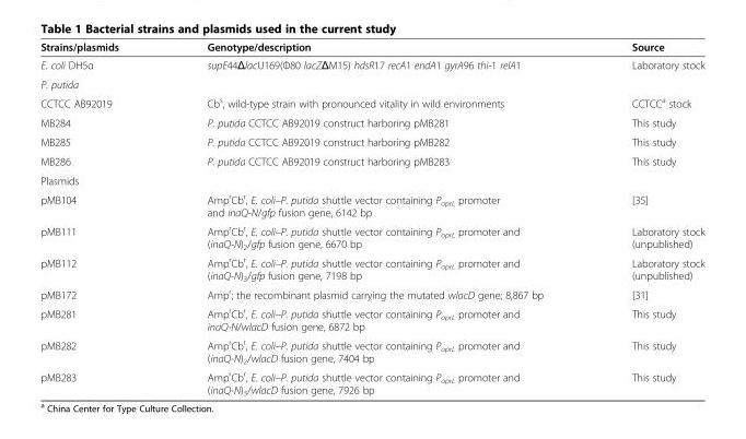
<table><thead><tr><td>Strains/plasmids</td><td>Genotype/description</td><td>Source</td></tr></thead><tbody><tr><td>E. coli DH5α</td><td>supE44ΔlacU169(Φ80 lacZΔM15) hdsR17 recA1 endA1 gyrA96 thi-1 relA1</td><td>Laboratory stock</td></tr><tr><td colspan="3">P. putida</td></tr><tr><td>CCTCC AB92019</td><td>Cb<sup>s</sup>, wild-type strain with pronounced vitality in wild environments</td><td>CCTCC<sup>a</sup> stock</td></tr><tr><td>MB284</td><td>P. putida CCTCC AB92019 construct harboring pMB281</td><td>This study</td></tr><tr><td>MB285</td><td>P. putida CCTCC AB92019 construct harboring pMB282</td><td>This study</td></tr><tr><td>MB286</td><td>P. putida CCTCC AB92019 construct harboring pMB283</td><td>This study</td></tr><tr><td colspan="3">Plasmids</td></tr><tr><td>pMB104</td><td>Amp<sup>r</sup>Cb<sup>r</sup>, E. coli–P. putida shuttle vector containing P<sub>oprL</sub> promoter and inaQ-N/gfp fusion gene, 6142 bp</td><td>[35]</td></tr><tr><td>pMB111</td><td>Amp<sup>r</sup>Cb<sup>r</sup>, E. coli–P. putida shuttle vector containing P<sub>oprL</sub> promoter and (inaQ-N)<sub>2</sub>/gfp fusion gene, 6670 bp</td><td>Laboratory stock (unpublished)</td></tr><tr><td>pMB112</td><td>Amp<sup>r</sup>Cb<sup>r</sup>, E. coli–P. putida shuttle vector containing P<sub>oprL</sub> promoter and (inaQ-N)<sub>3</sub>/gfp fusion gene, 7198 bp</td><td>Laboratory stock (unpublished)</td></tr><tr><td>pMB172</td><td>Amp<sup>r</sup>; the recombinant plasmid carrying the mutated wlacD gene; 8,867 bp</td><td>[31]</td></tr><tr><td>pMB281</td><td>Amp<sup>r</sup>Cb<sup>r</sup>, E. coli–P. putida shuttle vector containing P<sub>oprL</sub> promoter and inaQ-N/wlacD fusion gene, 6872 bp</td><td>This study</td></tr><tr><td>pMB282</td><td>Amp<sup>r</sup>Cb<sup>r</sup>, E. coli–P. putida shuttle vector containing P<sub>oprL</sub> promoter and (inaQ-N)<sub>2</sub>/wlacD fusion gene, 7404 bp</td><td>This study</td></tr><tr><td>pMB283</td><td>Amp<sup>r</sup>Cb<sup>r</sup>, E. coli–P. putida shuttle vector containing P<sub>oprL</sub> promoter and (inaQ-N)<sub>3</sub>/wlacD fusion gene, 7926 bp</td><td>This study</td></tr></tbody></table>